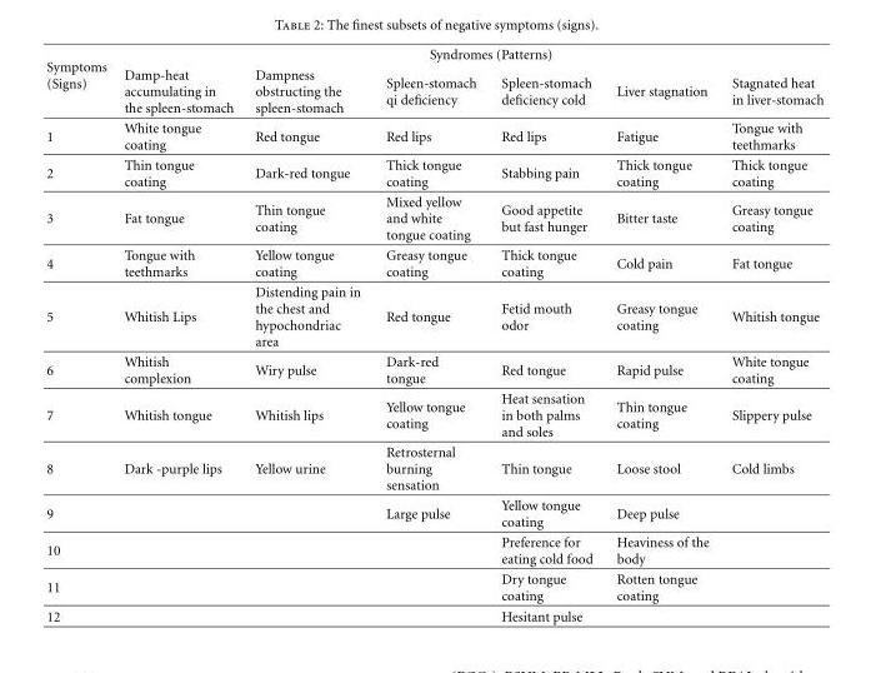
<table><thead><tr><td rowspan="2">Symptoms (Signs)</td><td rowspan="2">Damp-heat accumulating in the spleen-stomach</td><td rowspan="2">Dampness obstructing the spleen-stomach</td><td colspan="2">Syndromes (Patterns)</td><td rowspan="2">Liver stagnation</td><td rowspan="2">Stagnated heat in liver-stomach</td></tr><tr><td>Spleen-stomach qi deficiency</td><td>Spleen-stomach deficiency cold</td></tr></thead><tbody><tr><td>1</td><td>White tongue coating</td><td>Red tongue</td><td>Red lips</td><td>Red lips</td><td>Fatigue</td><td>Tongue with teethmarks</td></tr><tr><td>2</td><td>Thin tongue coating</td><td>Dark-red tongue</td><td>Thick tongue coating</td><td>Stabbing pain</td><td>Thick tongue coating</td><td>Thick tongue coating</td></tr><tr><td>3</td><td>Fat tongue</td><td>Thin tongue coating</td><td>Mixed yellow and white tongue coating</td><td>Good appetite but fast hunger</td><td>Bitter taste</td><td>Greasy tongue coating</td></tr><tr><td>4</td><td>Tongue with teethmarks</td><td>Yellow tongue coating</td><td>Greasy tongue coating</td><td>Thick tongue coating</td><td>Cold pain</td><td>Fat tongue</td></tr><tr><td>5</td><td>Whitish Lips</td><td>Distending pain in the chest and hypochondriac area</td><td>Red tongue</td><td>Fetid mouth odor</td><td>Greasy tongue coating</td><td>Whitish tongue</td></tr><tr><td>6</td><td>Whitish complexion</td><td>Wiry pulse</td><td>Dark-red tongue</td><td>Red tongue</td><td>Rapid pulse</td><td>White tongue coating</td></tr><tr><td>7</td><td>Whitish tongue</td><td>Whitish lips</td><td>Yellow tongue coating</td><td>Heat sensation in both palms and soles</td><td>Thin tongue coating</td><td>Slippery pulse</td></tr><tr><td>8</td><td>Dark -purple lips</td><td>Yellow urine</td><td>Retrosternal burning sensation</td><td>Thin tongue</td><td>Loose stool</td><td>Cold limbs</td></tr><tr><td>9</td><td></td><td></td><td>Large pulse</td><td>Yellow tongue coating</td><td>Deep pulse</td><td></td></tr><tr><td>10</td><td></td><td></td><td></td><td>Preference for eating cold food</td><td>Heaviness of the body</td><td></td></tr><tr><td>11</td><td></td><td></td><td></td><td>Dry tongue coating</td><td>Rotten tongue coating</td><td></td></tr><tr><td>12</td><td></td><td></td><td></td><td>Hesitant pulse</td><td></td><td></td></tr></tbody></table>